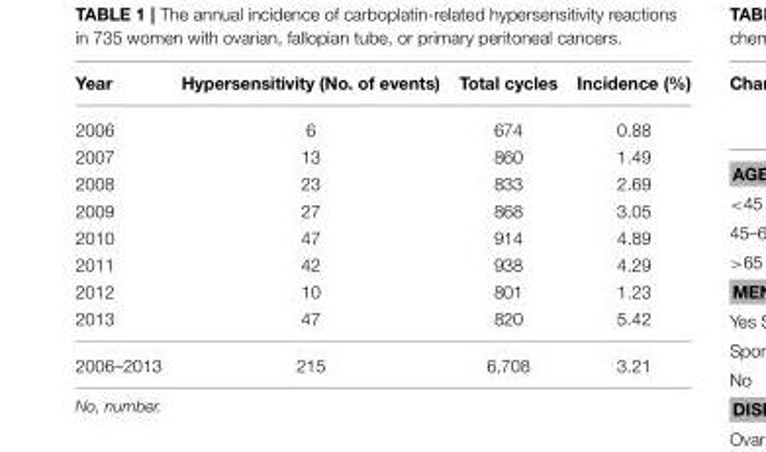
<table><thead><tr><td>Year</td><td>Hypersensitivity (No. of events)</td><td>Total cycles</td><td>Incidence (%)</td></tr></thead><tbody><tr><td>2006</td><td>6</td><td>674</td><td>0.88</td></tr><tr><td>2007</td><td>13</td><td>860</td><td>1.49</td></tr><tr><td>2008</td><td>23</td><td>833</td><td>2.69</td></tr><tr><td>2009</td><td>27</td><td>868</td><td>3.05</td></tr><tr><td>2010</td><td>47</td><td>914</td><td>4.89</td></tr><tr><td>2011</td><td>42</td><td>938</td><td>4.29</td></tr><tr><td>2012</td><td>10</td><td>801</td><td>1.23</td></tr><tr><td>2013</td><td>47</td><td>820</td><td>5.42</td></tr><tr><td>2006–2013</td><td>215</td><td>6,708</td><td>3.21</td></tr></tbody></table>